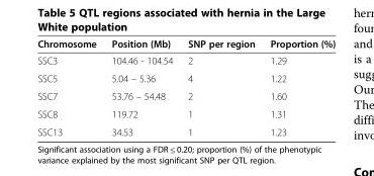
<table><thead><tr><td>Chromosome</td><td>Position (Mb)</td><td>SNP per region</td><td>Proportion (%)</td></tr></thead><tbody><tr><td>SSC3</td><td>104.46 - 104.54</td><td>2</td><td>1.29</td></tr><tr><td>SSC5</td><td>5.04 – 5.36</td><td>4</td><td>1.22</td></tr><tr><td>SSC7</td><td>53.76 – 54.48</td><td>2</td><td>1.60</td></tr><tr><td>SSC8</td><td>119.72</td><td>1</td><td>1.31</td></tr><tr><td>SSC13</td><td>34.53</td><td>1</td><td>1.23</td></tr></tbody></table>